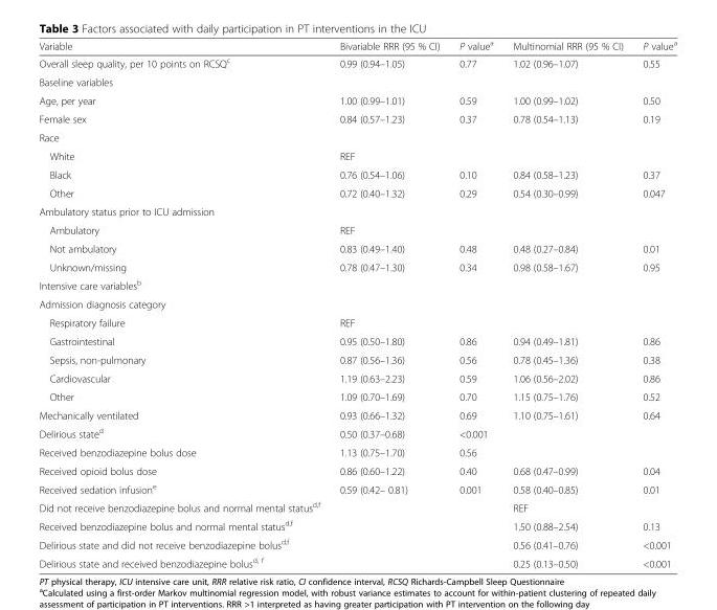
<table><thead><tr><td>Variable</td><td>Bivariable RRR (95 % CI)</td><td>P value<sup>a</sup></td><td>Multinomial RRR (95 % CI)</td><td>P value<sup>a</sup></td></tr></thead><tbody><tr><td>Overall sleep quality, per 10 points on RCSQ<sup>c</sup></td><td>0.99 (0.94–1.05)</td><td>0.77</td><td>1.02 (0.96–1.07)</td><td>0.55</td></tr><tr><td colspan="5">Baseline variables</td></tr><tr><td>Age, per year</td><td>1.00 (0.99–1.01)</td><td>0.59</td><td>1.00 (0.99–1.02)</td><td>0.50</td></tr><tr><td>Female sex</td><td>0.84 (0.57–1.23)</td><td>0.37</td><td>0.78 (0.54–1.13)</td><td>0.19</td></tr><tr><td colspan="5">Race</td></tr><tr><td>White</td><td>REF</td><td></td><td></td><td></td></tr><tr><td>Black</td><td>0.76 (0.54–1.06)</td><td>0.10</td><td>0.84 (0.58–1.23)</td><td>0.37</td></tr><tr><td>Other</td><td>0.72 (0.40–1.32)</td><td>0.29</td><td>0.54 (0.30–0.99)</td><td>0.047</td></tr><tr><td colspan="5">Ambulatory status prior to ICU admission</td></tr><tr><td>Ambulatory</td><td>REF</td><td></td><td></td><td></td></tr><tr><td>Not ambulatory</td><td>0.83 (0.49–1.40)</td><td>0.48</td><td>0.48 (0.27–0.84)</td><td>0.01</td></tr><tr><td>Unknown/missing</td><td>0.78 (0.47–1.30)</td><td>0.34</td><td>0.98 (0.58–1.67)</td><td>0.95</td></tr><tr><td colspan="5">Intensive care variables<sup>b</sup></td></tr><tr><td colspan="5">Admission diagnosis category</td></tr><tr><td>Respiratory failure</td><td>REF</td><td></td><td></td><td></td></tr><tr><td>Gastrointestinal</td><td>0.95 (0.50–1.80)</td><td>0.86</td><td>0.94 (0.49–1.81)</td><td>0.86</td></tr><tr><td>Sepsis, non-pulmonary</td><td>0.87 (0.56–1.36)</td><td>0.56</td><td>0.78 (0.45–1.36)</td><td>0.38</td></tr><tr><td>Cardiovascular</td><td>1.19 (0.63–2.23)</td><td>0.59</td><td>1.06 (0.56–2.02)</td><td>0.86</td></tr><tr><td>Other</td><td>1.09 (0.70–1.69)</td><td>0.70</td><td>1.15 (0.75–1.76)</td><td>0.52</td></tr><tr><td>Mechanically ventilated</td><td>0.93 (0.66–1.32)</td><td>0.69</td><td>1.10 (0.75–1.61)</td><td>0.64</td></tr><tr><td>Delirious state<sup>d</sup></td><td>0.50 (0.37–0.68)</td><td>&lt;0.001</td><td></td><td></td></tr><tr><td>Received benzodiazepine bolus dose</td><td>1.13 (0.75–1.70)</td><td>0.56</td><td></td><td></td></tr><tr><td>Received opioid bolus dose</td><td>0.86 (0.60–1.22)</td><td>0.40</td><td>0.68 (0.47–0.99)</td><td>0.04</td></tr><tr><td>Received sedation infusion<sup>e</sup></td><td>0.59 (0.42– 0.81)</td><td>0.001</td><td>0.58 (0.40–0.85)</td><td>0.01</td></tr><tr><td>Did not receive benzodiazepine bolus and normal mental status<sup>d,f</sup></td><td></td><td></td><td>REF</td><td></td></tr><tr><td>Received benzodiazepine bolus and normal mental status<sup>d,f</sup></td><td></td><td></td><td>1.50 (0.88–2.54)</td><td>0.13</td></tr><tr><td>Delirious state and did not receive benzodiazepine bolus<sup>d,f</sup></td><td></td><td></td><td>0.56 (0.41–0.76)</td><td>&lt;0.001</td></tr><tr><td>Delirious state and received benzodiazepine bolus<sup>d, f</sup></td><td></td><td></td><td>0.25 (0.13–0.50)</td><td>&lt;0.001</td></tr></tbody></table>